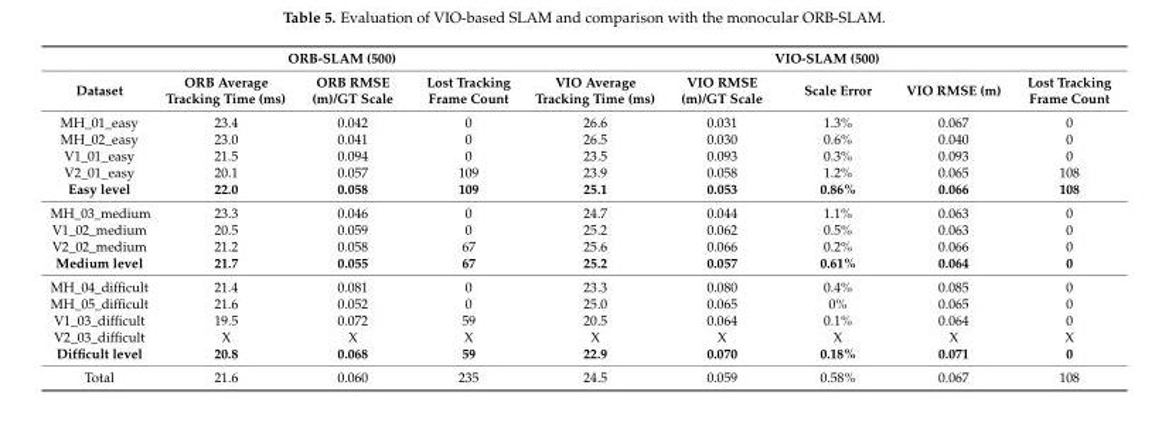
<table><thead><tr><td rowspan="2">Dataset</td><td colspan="3">ORB-SLAM (500)</td><td colspan="5">VIO-SLAM (500)</td></tr><tr><td>ORB Average Tracking Time (ms)</td><td>ORB RMSE (m)/GT Scale</td><td>Lost Tracking Frame Count</td><td>VIO Average Tracking Time (ms)</td><td>VIO RMSE (m)/GT Scale</td><td>Scale Error</td><td>VIO RMSE (m)</td><td>Lost Tracking Frame Count</td></tr></thead><tbody><tr><td>MH_01_easy</td><td>23.4</td><td>0.042</td><td>0</td><td>26.6</td><td>0.031</td><td>1.3%</td><td>0.067</td><td>0</td></tr><tr><td>MH_02_easy</td><td>23.0</td><td>0.041</td><td>0</td><td>26.5</td><td>0.030</td><td>0.6%</td><td>0.040</td><td>0</td></tr><tr><td>V1_01_easy</td><td>21.5</td><td>0.094</td><td>0</td><td>23.5</td><td>0.093</td><td>0.3%</td><td>0.093</td><td>0</td></tr><tr><td>V2_01_easy</td><td>20.1</td><td>0.057</td><td>109</td><td>23.9</td><td>0.058</td><td>1.2%</td><td>0.065</td><td>108</td></tr><tr><td>Easy level</td><td>22.0</td><td>0.058</td><td>109</td><td>25.1</td><td>0.053</td><td>0.86%</td><td>0.066</td><td>108</td></tr><tr><td>MH_03_medium</td><td>23.3</td><td>0.046</td><td>0</td><td>24.7</td><td>0.044</td><td>1.1%</td><td>0.063</td><td>0</td></tr><tr><td>V1_02_medium</td><td>20.5</td><td>0.059</td><td>0</td><td>25.2</td><td>0.062</td><td>0.5%</td><td>0.063</td><td>0</td></tr><tr><td>V2_02_medium</td><td>21.2</td><td>0.058</td><td>67</td><td>25.6</td><td>0.066</td><td>0.2%</td><td>0.066</td><td>0</td></tr><tr><td>Medium level</td><td>21.7</td><td>0.055</td><td>67</td><td>25.2</td><td>0.057</td><td>0.61%</td><td>0.064</td><td>0</td></tr><tr><td>MH_04_difficult</td><td>21.4</td><td>0.081</td><td>0</td><td>23.3</td><td>0.080</td><td>0.4%</td><td>0.085</td><td>0</td></tr><tr><td>MH_05_difficult</td><td>21.6</td><td>0.052</td><td>0</td><td>25.0</td><td>0.065</td><td>0%</td><td>0.065</td><td>0</td></tr><tr><td>V1_03_difficult</td><td>19.5</td><td>0.072</td><td>59</td><td>20.5</td><td>0.064</td><td>0.1%</td><td>0.064</td><td>0</td></tr><tr><td>V2_03_difficult</td><td>X</td><td>X</td><td>X</td><td>X</td><td>X</td><td>X</td><td>X</td><td>X</td></tr><tr><td>Difficult level</td><td>20.8</td><td>0.068</td><td>59</td><td>22.9</td><td>0.070</td><td>0.18%</td><td>0.071</td><td>0</td></tr><tr><td>Total</td><td>21.6</td><td>0.060</td><td>235</td><td>24.5</td><td>0.059</td><td>0.58%</td><td>0.067</td><td>108</td></tr></tbody></table>